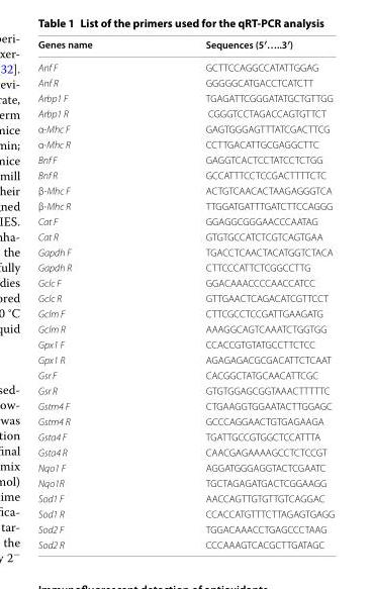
<table><thead><tr><td>Genes name</td><td>Sequences (5′…..3′)</td></tr></thead><tbody><tr><td>Anf F</td><td>GCTTCCAGGCCATATTGGAG</td></tr><tr><td>Anf R</td><td>GGGGGCATGACCTCATCTT</td></tr><tr><td>Arbp1 F</td><td>TGAGATTCGGGATATGCTGTTGG</td></tr><tr><td>Arbp1 R</td><td>CGGGTCCTAGACCAGTGTTCT</td></tr><tr><td>α‑Mhc F</td><td>GAGTGGGAGTTTATCGACTTCG</td></tr><tr><td>α‑Mhc R</td><td>CCTTGACATTGCGAGGCTTC</td></tr><tr><td>Bnf F</td><td>GAGGTCACTCCTATCCTCTGG</td></tr><tr><td>Bnf R</td><td>GCCATTTCCTCCGACTTTTCTC</td></tr><tr><td>β‑Mhc F</td><td>ACTGTCAACACTAAGAGGGTCA</td></tr><tr><td>β‑Mhc R</td><td>TTGGATGATTTGATCTTCCAGGG</td></tr><tr><td>Cat F</td><td>GGAGGCGGGAACCCAATAG</td></tr><tr><td>Cat R</td><td>GTGTGCCATCTCGTCAGTGAA</td></tr><tr><td>Gapdh F</td><td>TGACCTCAACTACATGGTCTACA</td></tr><tr><td>Gapdh R</td><td>CTTCCCATTCTCGGCCTTG</td></tr><tr><td>Gclc F</td><td>GGACAAACCCCAACCATCC</td></tr><tr><td>Gclc R</td><td>GTTGAACTCAGACATCGTTCCT</td></tr><tr><td>Gclm F</td><td>CTTCGCCTCCGATTGAAGATG</td></tr><tr><td>Gclm R</td><td>AAAGGCAGTCAAATCTGGTGG</td></tr><tr><td>Gpx1 F</td><td>CCACCGTGTATGCCTTCTCC</td></tr><tr><td>Gpx1 R</td><td>AGAGAGACGCGACATTCTCAAT</td></tr><tr><td>Gsr F</td><td>CACGGCTATGCAACATTCGC</td></tr><tr><td>Gsr R</td><td>GTGTGGAGCGGTAAACTTTTTC</td></tr><tr><td>Gstm4 F</td><td>CTGAAGGTGGAATACTTGGAGC</td></tr><tr><td>Gstm4 R</td><td>GCCCAGGAACTGTGAGAAGA</td></tr><tr><td>Gsta4 F</td><td>TGATTGCCGTGGCTCCATTTA</td></tr><tr><td>Gsta4 R</td><td>CAACGAGAAAAGCCTCTCCGT</td></tr><tr><td>Nqo1 F</td><td>AGGATGGGAGGTACTCGAATC</td></tr><tr><td>Nqo1R</td><td>TGCTAGAGATGACTCGGAAGG</td></tr><tr><td>Sod1 F</td><td>AACCAGTTGTGTTGTCAGGAC</td></tr><tr><td>Sod1 R</td><td>CCACCATGTTTCTTAGAGTGAGG</td></tr><tr><td>Sod2 F</td><td>TGGACAAACCTGAGCCCTAAG</td></tr><tr><td>Sod2 R</td><td>CCCAAAGTCACGCTTGATAGC</td></tr></tbody></table>